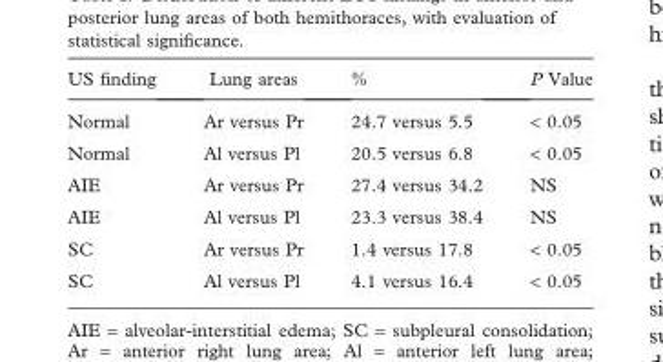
<table><thead><tr><td>US finding</td><td>Lung areas</td><td>%</td><td>P Value</td></tr></thead><tbody><tr><td>Normal</td><td>Ar versus Pr</td><td>24.7 versus 5.5</td><td>&lt; 0.05</td></tr><tr><td>Normal</td><td>Al versus Pl</td><td>20.5 versus 6.8</td><td>&lt; 0.05</td></tr><tr><td>AIE</td><td>Ar versus Pr</td><td>27.4 versus 34.2</td><td>NS</td></tr><tr><td>AIE</td><td>Al versus Pl</td><td>23.3 versus 38.4</td><td>NS</td></tr><tr><td>SC</td><td>Ar versus Pr</td><td>1.4 versus 17.8</td><td>&lt; 0.05</td></tr><tr><td>SC</td><td>Al versus Pl</td><td>4.1 versus 16.4</td><td>&lt; 0.05</td></tr></tbody></table>